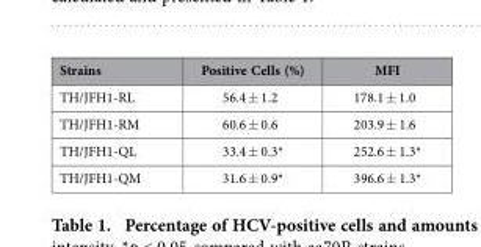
<table><thead><tr><td>Strains</td><td>Positive Cells (%)</td><td>MFI</td></tr></thead><tbody><tr><td>TH/JFH1-RL</td><td>56.4 ± 1.2</td><td>178.1 ± 1.0</td></tr><tr><td>TH/JFH1-RM</td><td>60.6 ± 0.6</td><td>203.9 ± 1.6</td></tr><tr><td>TH/JFH1-QL</td><td>33.4 ± 0.3*</td><td>252.6 ± 1.3*</td></tr><tr><td>TH/JFH1-QM</td><td>31.6 ± 0.9*</td><td>396.6 ± 1.3*</td></tr></tbody></table>